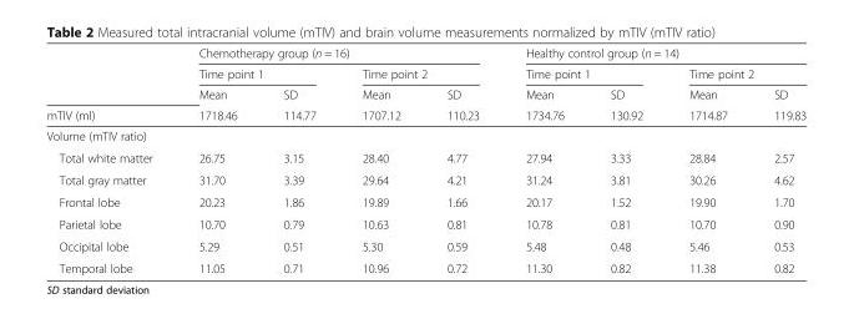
<table><thead><tr><td rowspan="4">mTIV (ml)</td><td colspan="4">Chemotherapy group (n = 16)</td><td colspan="4">Healthy control group (n = 14)</td></tr><tr><td colspan="2">Time point 1</td><td colspan="2">Time point 2</td><td colspan="2">Time point 1</td><td colspan="2">Time point 2</td></tr><tr><td rowspan="2">Mean 1718.46</td><td rowspan="2">SD 114.77</td><td rowspan="2">Mean 1707.12</td><td rowspan="2">SD 110.23</td><td rowspan="2">Mean 1734.76</td><td rowspan="2">SD 130.92</td><td rowspan="2">Mean 1714.87</td><td rowspan="2">SD 119.83</td></tr><tr></tr></thead><tbody><tr><td colspan="9">Volume (mTIV ratio)</td></tr><tr><td>Total white matter</td><td>26.75</td><td>3.15</td><td>28.40</td><td>4.77</td><td>27.94</td><td>3.33</td><td>28.84</td><td>2.57</td></tr><tr><td>Total gray matter</td><td>31.70</td><td>3.39</td><td>29.64</td><td>4.21</td><td>31.24</td><td>3.81</td><td>30.26</td><td>4.62</td></tr><tr><td>Frontal lobe</td><td>20.23</td><td>1.86</td><td>19.89</td><td>1.66</td><td>20.17</td><td>1.52</td><td>19.90</td><td>1.70</td></tr><tr><td>Parietal lobe</td><td>10.70</td><td>0.79</td><td>10.63</td><td>0.81</td><td>10.78</td><td>0.81</td><td>10.70</td><td>0.90</td></tr><tr><td>Occipital lobe</td><td>5.29</td><td>0.51</td><td>5.30</td><td>0.59</td><td>5.48</td><td>0.48</td><td>5.46</td><td>0.53</td></tr><tr><td>Temporal lobe</td><td>11.05</td><td>0.71</td><td>10.96</td><td>0.72</td><td>11.30</td><td>0.82</td><td>11.38</td><td>0.82</td></tr></tbody></table>